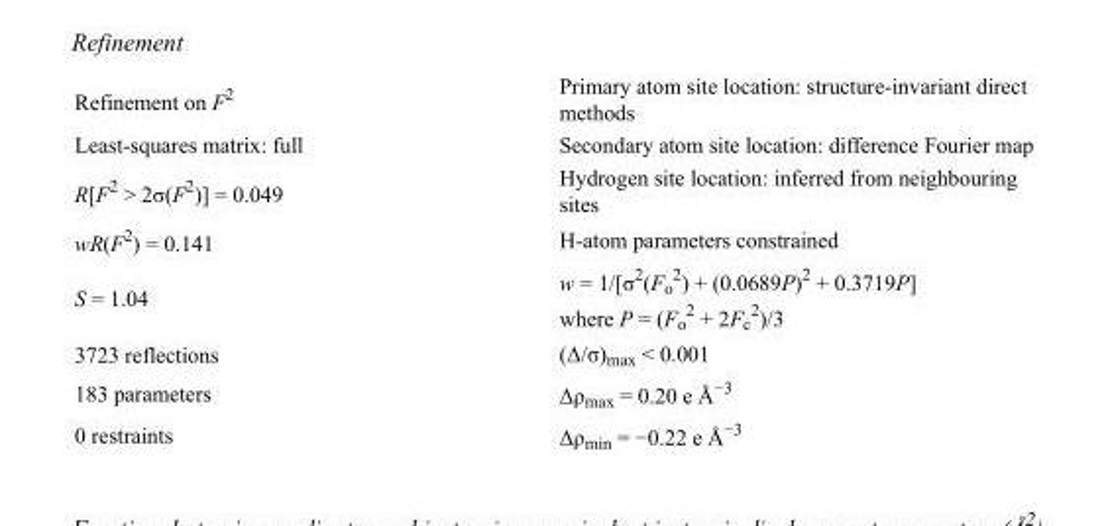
<table><tbody><tr><td>Refinement on F<sup>2</sup></td><td>Primary atom site location: structure-invariant direct methods</td></tr><tr><td>Least-squares matrix: full</td><td>Secondary atom site location: difference Fourier map</td></tr><tr><td>R[F<sup>2</sup> &gt; 2σ(F<sup>2</sup>)] = 0.049</td><td>Hydrogen site location: inferred from neighbouring sites</td></tr><tr><td>wR(F<sup>2</sup>) = 0.141</td><td>H-atom parameters constrained</td></tr><tr><td>S = 1.04</td><td>w = 1/[σ<sup>2</sup>(F<sub>o</sub> <sup>2</sup>) + (0.0689P)<sup>2</sup> + 0.3719P] where P = (F<sub>o</sub> <sup>2</sup> + 2F<sub>c</sub> <sup>2</sup>)/3</td></tr><tr><td>3723 reflections</td><td>(Δ/σ)<sub>max</sub> &lt; 0.001</td></tr><tr><td>183 parameters</td><td>Δρ<sub>max</sub> = 0.20 e Å<sup>−3</sup></td></tr><tr><td>0 restraints</td><td>Δρ<sub>min</sub> = −0.22 e Å<sup>−3</sup></td></tr></tbody></table>